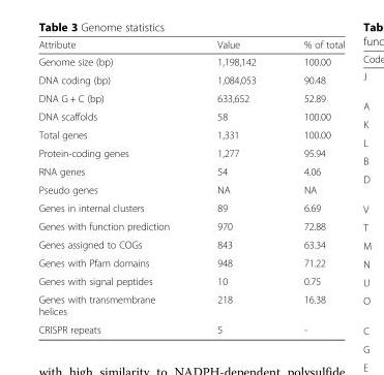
<table><thead><tr><td>Attribute</td><td>Value</td><td>% of total</td></tr></thead><tbody><tr><td>Genome size (bp)</td><td>1,198,142</td><td>100.00</td></tr><tr><td>DNA coding (bp)</td><td>1,084,053</td><td>90.48</td></tr><tr><td>DNA G + C (bp)</td><td>633,652</td><td>52.89</td></tr><tr><td>DNA scaffolds</td><td>58</td><td>100.00</td></tr><tr><td>Total genes</td><td>1,331</td><td>100.00</td></tr><tr><td>Protein-coding genes</td><td>1,277</td><td>95.94</td></tr><tr><td>RNA genes</td><td>54</td><td>4.06</td></tr><tr><td>Pseudo genes</td><td>NA</td><td>NA</td></tr><tr><td>Genes in internal clusters</td><td>89</td><td>6.69</td></tr><tr><td>Genes with function prediction</td><td>970</td><td>72.88</td></tr><tr><td>Genes assigned to COGs</td><td>843</td><td>63.34</td></tr><tr><td>Genes with Pfam domains</td><td>948</td><td>71.22</td></tr><tr><td>Genes with signal peptides</td><td>10</td><td>0.75</td></tr><tr><td>Genes with transmembrane helices</td><td>218</td><td>16.38</td></tr><tr><td>CRISPR repeats</td><td>5</td><td>-</td></tr></tbody></table>